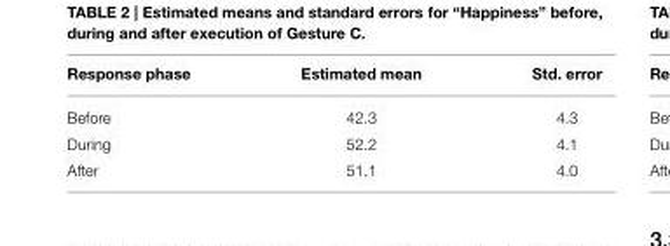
<table><thead><tr><td>Response phase</td><td>Estimated mean</td><td>Std. error</td></tr></thead><tbody><tr><td>Before</td><td>42.3</td><td>4.3</td></tr><tr><td>During</td><td>52.2</td><td>4.1</td></tr><tr><td>After</td><td>51.1</td><td>4.0</td></tr></tbody></table>